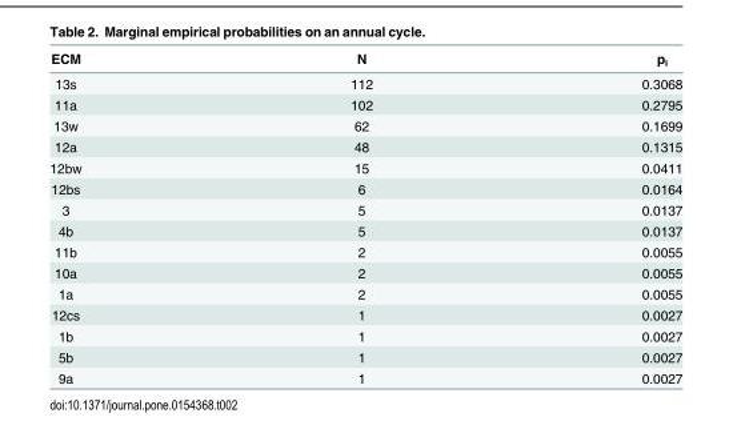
<table><thead><tr><td>ECM</td><td>N</td><td>p<sub>i</sub></td></tr></thead><tbody><tr><td>13s</td><td>112</td><td>0.3068</td></tr><tr><td>11a</td><td>102</td><td>0.2795</td></tr><tr><td>13w</td><td>62</td><td>0.1699</td></tr><tr><td>12a</td><td>48</td><td>0.1315</td></tr><tr><td>12bw</td><td>15</td><td>0.0411</td></tr><tr><td>12bs</td><td>6</td><td>0.0164</td></tr><tr><td>3</td><td>5</td><td>0.0137</td></tr><tr><td>4b</td><td>5</td><td>0.0137</td></tr><tr><td>11b</td><td>2</td><td>0.0055</td></tr><tr><td>10a</td><td>2</td><td>0.0055</td></tr><tr><td>1a</td><td>2</td><td>0.0055</td></tr><tr><td>12cs</td><td>1</td><td>0.0027</td></tr><tr><td>1b</td><td>1</td><td>0.0027</td></tr><tr><td>5b</td><td>1</td><td>0.0027</td></tr><tr><td>9a</td><td>1</td><td>0.0027</td></tr></tbody></table>